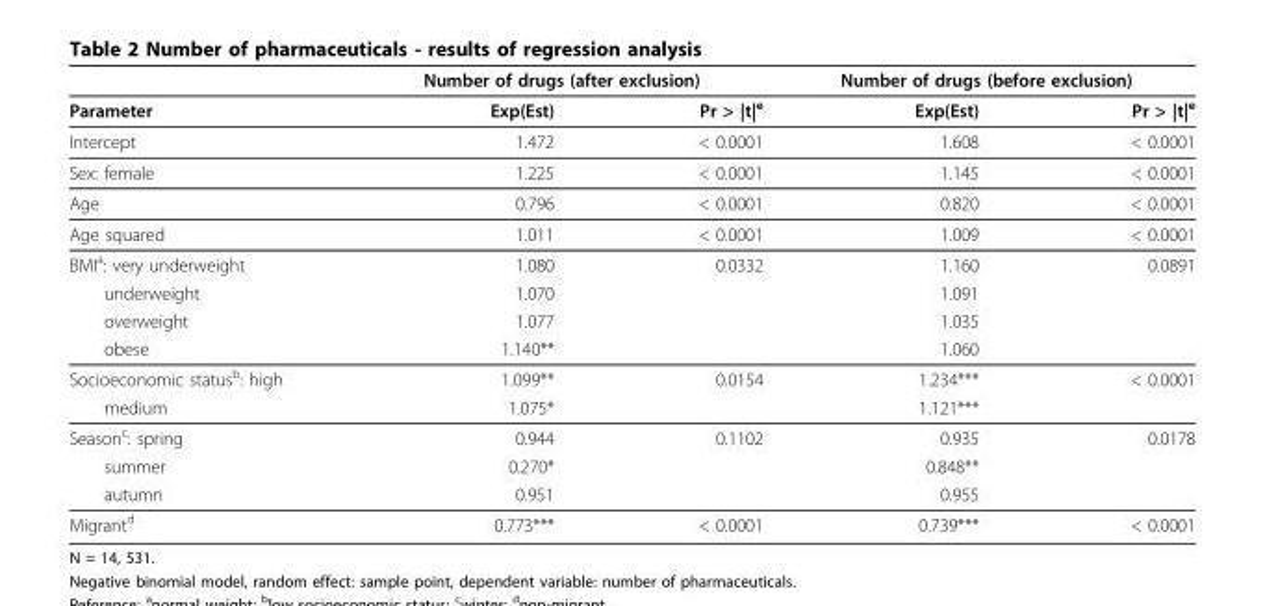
<table><thead><tr><td rowspan="2">Parameter</td><td colspan="2">Number of drugs (after exclusion)</td><td colspan="2">Number of drugs (before exclusion)</td></tr><tr><td>Exp(Est)</td><td>Pr &gt; |t|<sup>e</sup></td><td>Exp(Est)</td><td>Pr &gt; |t|<sup>e</sup></td></tr></thead><tbody><tr><td>Intercept</td><td>1.472</td><td>&lt; 0.0001</td><td>1.608</td><td>&lt; 0.0001</td></tr><tr><td>Sex: female</td><td>1.225</td><td>&lt; 0.0001</td><td>1.145</td><td>&lt; 0.0001</td></tr><tr><td>Age</td><td>0.796</td><td>&lt; 0.0001</td><td>0.820</td><td>&lt; 0.0001</td></tr><tr><td>Age squared</td><td>1.011</td><td>&lt; 0.0001</td><td>1.009</td><td>&lt; 0.0001</td></tr><tr><td>BMI<sup>a</sup>: very underweight</td><td>1.080</td><td>0.0332</td><td>1.160</td><td>0.0891</td></tr><tr><td>underweight</td><td>1.070</td><td></td><td>1.091</td><td></td></tr><tr><td>overweight</td><td>1.077</td><td></td><td>1.035</td><td></td></tr><tr><td>obese</td><td>1.140**</td><td></td><td>1.060</td><td></td></tr><tr><td>Socioeconomic status<sup>b</sup>: high</td><td>1.099**</td><td>0.0154</td><td>1.234***</td><td>&lt; 0.0001</td></tr><tr><td>medium</td><td>1.075*</td><td></td><td>1.121***</td><td></td></tr><tr><td>Season<sup>c</sup>: spring</td><td>0.944</td><td>0.1102</td><td>0.935</td><td>0.0178</td></tr><tr><td>summer</td><td>0.270*</td><td></td><td>0.848**</td><td></td></tr><tr><td>autumn</td><td>0.951</td><td></td><td>0.955</td><td></td></tr><tr><td>Migrant<sup>d</sup></td><td>0.773***</td><td>&lt; 0.0001</td><td>0.739***</td><td>&lt; 0.0001</td></tr></tbody></table>